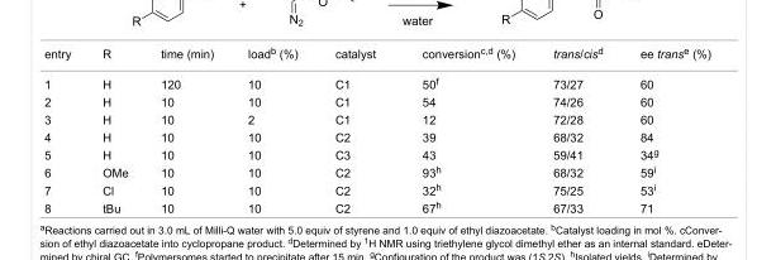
<table><tbody><tr><td>entry</td><td>R</td><td>time (min)</td><td>load<sup>b</sup> (%)</td><td>catalyst</td><td>conversion<sup>c,d</sup> (%)</td><td>trans/cis<sup>d</sup></td><td>ee trans<sup>e</sup> (%)</td></tr><tr><td>1</td><td>H</td><td>120</td><td>10</td><td>C1</td><td>50<sup>f</sup></td><td>73/27</td><td>60</td></tr><tr><td>2</td><td>H</td><td>10</td><td>10</td><td>C1</td><td>54</td><td>74/26</td><td>60</td></tr><tr><td>3</td><td>H</td><td>10</td><td>2</td><td>C1</td><td>12</td><td>72/28</td><td>60</td></tr><tr><td>4</td><td>H</td><td>10</td><td>10</td><td>C2</td><td>39</td><td>68/32</td><td>84</td></tr><tr><td>5</td><td>H</td><td>10</td><td>10</td><td>C3</td><td>43</td><td>59/41</td><td>34<sup>g</sup></td></tr><tr><td>6</td><td>OMe</td><td>10</td><td>10</td><td>C2</td><td>93<sup>h</sup></td><td>68/32</td><td>59<sup>i</sup></td></tr><tr><td>7</td><td>Cl</td><td>10</td><td>10</td><td>C2</td><td>32<sup>h</sup></td><td>75/25</td><td>53<sup>i</sup></td></tr><tr><td>8</td><td>tBu</td><td>10</td><td>10</td><td>C2</td><td>67<sup>h</sup></td><td>67/33</td><td>71</td></tr></tbody></table>